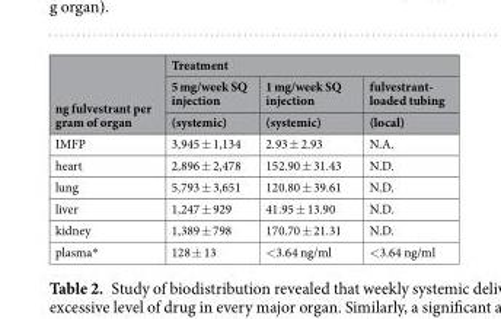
<table><thead><tr><td rowspan="3">ng fulvestrant per gram of organ</td><td colspan="3">Treatment</td></tr><tr><td rowspan="2">5 mg/week SQ injection (systemic)</td><td rowspan="2">1 mg/week SQ injection (systemic)</td><td rowspan="2">fulvestrant- loaded tubing (local)</td></tr><tr></tr></thead><tbody><tr><td>IMFP</td><td>3,945 ± 1,134</td><td>2.93 ± 2.93</td><td>N.A.</td></tr><tr><td>heart</td><td>2,896 ± 2,478</td><td>152.90 ± 31.43</td><td>N.D.</td></tr><tr><td>lung</td><td>5,793 ± 3,651</td><td>120.80 ± 39.61</td><td>N.D.</td></tr><tr><td>liver</td><td>1,247 ± 929</td><td>41.95 ± 13.90</td><td>N.D.</td></tr><tr><td>kidney</td><td>1,389 ± 798</td><td>170.70 ± 21.31</td><td>N.D.</td></tr><tr><td>plasma*</td><td>128 ± 13</td><td>&lt;3.64 ng/ml</td><td>&lt;3.64 ng/ml</td></tr></tbody></table>